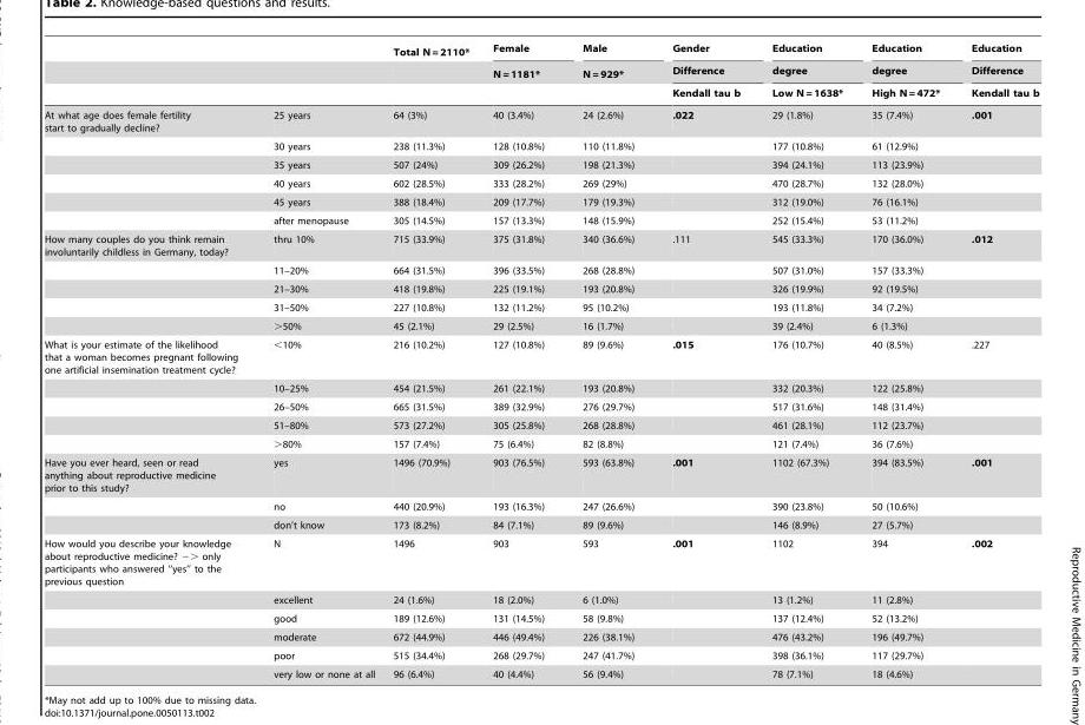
<table><thead><tr><td rowspan="3"></td><td rowspan="3"></td><td rowspan="3">Total N = 2110*</td><td rowspan="3">Female N = 1181*</td><td rowspan="3">Male N = 929*</td><td rowspan="3">Gender Difference Kendall tau b</td><td rowspan="3">Education degree Low N = 1638*</td><td rowspan="3">Education degree High N = 472*</td><td rowspan="3">Education Difference Kendall tau b</td></tr><tr></tr><tr></tr></thead><tbody><tr><td rowspan="6">At what age does female fertility start to gradually decline?</td><td>25 years</td><td>64 (3%)</td><td>40 (3.4%)</td><td>24 (2.6%)</td><td>.022</td><td>29 (1.8%)</td><td>35 (7.4%)</td><td>.001</td></tr><tr><td>30 years</td><td>238 (11.3%)</td><td>128 (10.8%)</td><td>110 (11.8%)</td><td></td><td>177 (10.8%)</td><td>61 (12.9%)</td><td></td></tr><tr><td>35 years</td><td>507 (24%)</td><td>309 (26.2%)</td><td>198 (21.3%)</td><td></td><td>394 (24.1%)</td><td>113 (23.9%)</td><td></td></tr><tr><td>40 years</td><td>602 (28.5%)</td><td>333 (28.2%)</td><td>269 (29%)</td><td></td><td>470 (28.7%)</td><td>132 (28.0%)</td><td></td></tr><tr><td>45 years</td><td>388 (18.4%)</td><td>209 (17.7%)</td><td>179 (19.3%)</td><td></td><td>312 (19.0%)</td><td>76 (16.1%)</td><td></td></tr><tr><td>after menopause</td><td>305 (14.5%)</td><td>157 (13.3%)</td><td>148 (15.9%)</td><td></td><td>252 (15.4%)</td><td>53 (11.2%)</td><td></td></tr><tr><td rowspan="5">How many couples do you think remain involuntarily childless in Germany, today?</td><td>thru 10%</td><td>715 (33.9%)</td><td>375 (31.8%)</td><td>340 (36.6%)</td><td>.111</td><td>545 (33.3%)</td><td>170 (36.0%)</td><td>.012</td></tr><tr><td>11–20%</td><td>664 (31.5%)</td><td>396 (33.5%)</td><td>268 (28.8%)</td><td></td><td>507 (31.0%)</td><td>157 (33.3%)</td><td></td></tr><tr><td>21–30%</td><td>418 (19.8%)</td><td>225 (19.1%)</td><td>193 (20.8%)</td><td></td><td>326 (19.9%)</td><td>92 (19.5%)</td><td></td></tr><tr><td>31–50%</td><td>227 (10.8%)</td><td>132 (11.2%)</td><td>95 (10.2%)</td><td></td><td>193 (11.8%)</td><td>34 (7.2%)</td><td></td></tr><tr><td>&gt;50%</td><td>45 (2.1%)</td><td>29 (2.5%)</td><td>16 (1.7%)</td><td></td><td>39 (2.4%)</td><td>6 (1.3%)</td><td></td></tr><tr><td rowspan="5">What is your estimate of the likelihood that a woman becomes pregnant following one artificial insemination treatment cycle?</td><td>&lt;10%</td><td>216 (10.2%)</td><td>127 (10.8%)</td><td>89 (9.6%)</td><td>.015</td><td>176 (10.7%)</td><td>40 (8.5%)</td><td>.227</td></tr><tr><td>10–25%</td><td>454 (21.5%)</td><td>261 (22.1%)</td><td>193 (20.8%)</td><td></td><td>332 (20.3%)</td><td>122 (25.8%)</td><td></td></tr><tr><td>26–50%</td><td>665 (31.5%)</td><td>389 (32.9%)</td><td>276 (29.7%)</td><td></td><td>517 (31.6%)</td><td>148 (31.4%)</td><td></td></tr><tr><td>51–80%</td><td>573 (27.2%)</td><td>305 (25.8%)</td><td>268 (28.8%)</td><td></td><td>461 (28.1%)</td><td>112 (23.7%)</td><td></td></tr><tr><td>&gt;80%</td><td>157 (7.4%)</td><td>75 (6.4%)</td><td>82 (8.8%)</td><td></td><td>121 (7.4%)</td><td>36 (7.6%)</td><td></td></tr><tr><td rowspan="3">Have you ever heard, seen or read anything about reproductive medicine prior to this study?</td><td>yes</td><td>1496 (70.9%)</td><td>903 (76.5%)</td><td>593 (63.8%)</td><td>.001</td><td>1102 (67.3%)</td><td>394 (83.5%)</td><td>.001</td></tr><tr><td>no</td><td>440 (20.9%)</td><td>193 (16.3%)</td><td>247 (26.6%)</td><td></td><td>390 (23.8%)</td><td>50 (10.6%)</td><td></td></tr><tr><td>don’t know</td><td>173 (8.2%)</td><td>84 (7.1%)</td><td>89 (9.6%)</td><td></td><td>146 (8.9%)</td><td>27 (5.7%)</td><td></td></tr><tr><td rowspan="6">How would you describe your knowledge about reproductive medicine? 2. only participants who answered ‘‘yes’’ to the previous question</td><td>N</td><td>1496</td><td>903</td><td>593</td><td>.001</td><td>1102</td><td>394</td><td>.002</td></tr><tr><td>excellent</td><td>24 (1.6%)</td><td>18 (2.0%)</td><td>6 (1.0%)</td><td></td><td>13 (1.2%)</td><td>11 (2.8%)</td><td></td></tr><tr><td>good</td><td>189 (12.6%)</td><td>131 (14.5%)</td><td>58 (9.8%)</td><td></td><td>137 (12.4%)</td><td>52 (13.2%)</td><td></td></tr><tr><td>moderate</td><td>672 (44.9%)</td><td>446 (49.4%)</td><td>226 (38.1%)</td><td></td><td>476 (43.2%)</td><td>196 (49.7%)</td><td></td></tr><tr><td>poor</td><td>515 (34.4%)</td><td>268 (29.7%)</td><td>247 (41.7%)</td><td></td><td>398 (36.1%)</td><td>117 (29.7%)</td><td></td></tr><tr><td>very low or none at all</td><td>96 (6.4%)</td><td>40 (4.4%)</td><td>56 (9.4%)</td><td></td><td>78 (7.1%)</td><td>18 (4.6%)</td><td></td></tr></tbody></table>